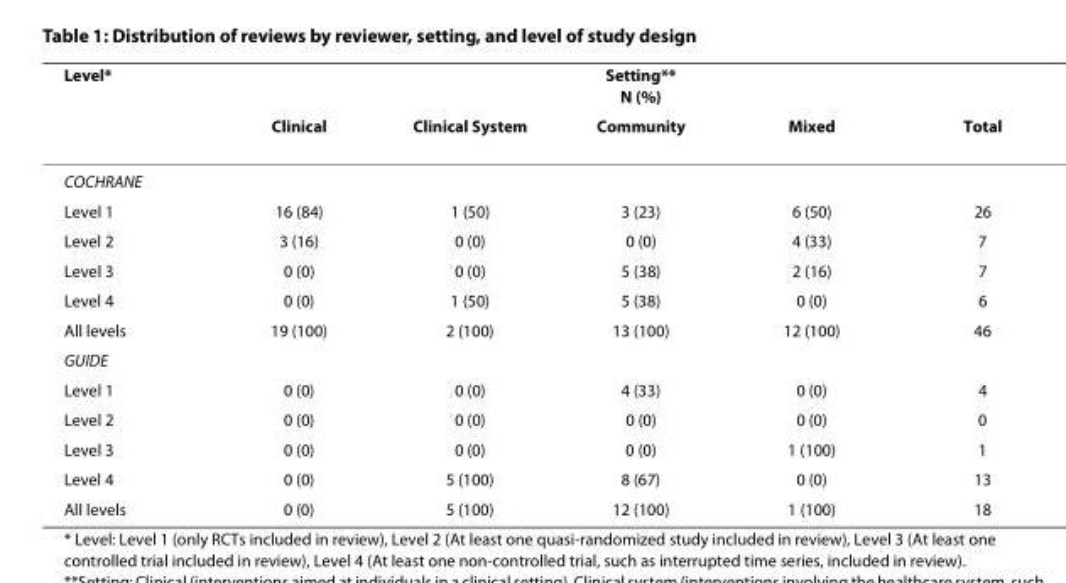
<table><thead><tr><td rowspan="2">Level*</td><td colspan="5">Setting** N (%)</td></tr><tr><td>Clinical</td><td>Clinical System</td><td>Community</td><td>Mixed</td><td>Total</td></tr></thead><tbody><tr><td colspan="6">COCHRANE</td></tr><tr><td>Level 1</td><td>16 (84)</td><td>1 (50)</td><td>3 (23)</td><td>6 (50)</td><td>26</td></tr><tr><td>Level 2</td><td>3 (16)</td><td>0 (0)</td><td>0 (0)</td><td>4 (33)</td><td>7</td></tr><tr><td>Level 3</td><td>0 (0)</td><td>0 (0)</td><td>5 (38)</td><td>2 (16)</td><td>7</td></tr><tr><td>Level 4</td><td>0 (0)</td><td>1 (50)</td><td>5 (38)</td><td>0 (0)</td><td>6</td></tr><tr><td>All levels</td><td>19 (100)</td><td>2 (100)</td><td>13 (100)</td><td>12 (100)</td><td>46</td></tr><tr><td colspan="6">GUIDE</td></tr><tr><td>Level 1</td><td>0 (0)</td><td>0 (0)</td><td>4 (33)</td><td>0 (0)</td><td>4</td></tr><tr><td>Level 2</td><td>0 (0)</td><td>0 (0)</td><td>0 (0)</td><td>0 (0)</td><td>0</td></tr><tr><td>Level 3</td><td>0 (0)</td><td>0 (0)</td><td>0 (0)</td><td>1 (100)</td><td>1</td></tr><tr><td>Level 4</td><td>0 (0)</td><td>5 (100)</td><td>8 (67)</td><td>0 (0)</td><td>13</td></tr><tr><td>All levels</td><td>0 (0)</td><td>5 (100)</td><td>12 (100)</td><td>1 (100)</td><td>18</td></tr></tbody></table>